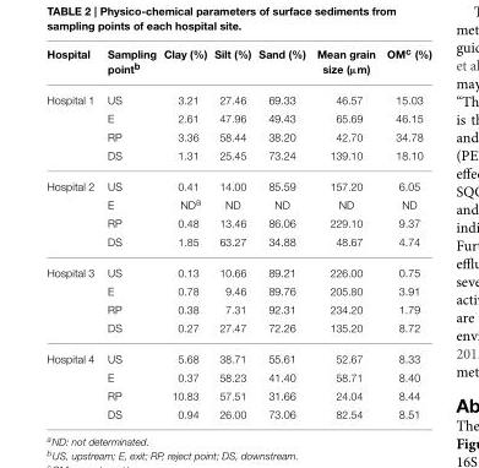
<table><thead><tr><td>Hospital</td><td>Sampling point<sup>b</sup></td><td>Clay (%)</td><td>Silt (%)</td><td>Sand (%)</td><td>Mean grain size (µm)</td><td>OM<sup>c</sup> (%)</td></tr></thead><tbody><tr><td rowspan="4">Hospital 1</td><td>US</td><td>3.21</td><td>27.46</td><td>69.33</td><td>46.57</td><td>15.03</td></tr><tr><td>E</td><td>2.61</td><td>47.96</td><td>49.43</td><td>65.69</td><td>46.15</td></tr><tr><td>RP</td><td>3.36</td><td>58.44</td><td>38.20</td><td>42.70</td><td>34.78</td></tr><tr><td>DS</td><td>1.31</td><td>25.45</td><td>73.24</td><td>139.10</td><td>18.10</td></tr><tr><td rowspan="4">Hospital 2</td><td>US</td><td>0.41</td><td>14.00</td><td>85.59</td><td>157.20</td><td>6.05</td></tr><tr><td>E</td><td>ND<sup>a</sup></td><td>ND</td><td>ND</td><td>ND</td><td>ND</td></tr><tr><td>RP</td><td>0.48</td><td>13.46</td><td>86.06</td><td>229.10</td><td>9.37</td></tr><tr><td>DS</td><td>1.85</td><td>63.27</td><td>34.88</td><td>48.67</td><td>4.74</td></tr><tr><td rowspan="4">Hospital 3</td><td>US</td><td>0.13</td><td>10.66</td><td>89.21</td><td>226.00</td><td>0.75</td></tr><tr><td>E</td><td>0.78</td><td>9.46</td><td>89.76</td><td>205.80</td><td>3.91</td></tr><tr><td>RP</td><td>0.38</td><td>7.31</td><td>92.31</td><td>234.20</td><td>1.79</td></tr><tr><td>DS</td><td>0.27</td><td>27.47</td><td>72.26</td><td>135.20</td><td>8.72</td></tr><tr><td rowspan="4">Hospital 4</td><td>US</td><td>5.68</td><td>38.71</td><td>55.61</td><td>52.67</td><td>8.33</td></tr><tr><td>E</td><td>0.37</td><td>58.23</td><td>41.40</td><td>58.71</td><td>8.40</td></tr><tr><td>RP</td><td>10.83</td><td>57.51</td><td>31.66</td><td>24.04</td><td>8.44</td></tr><tr><td>DS</td><td>0.94</td><td>26.00</td><td>73.06</td><td>82.54</td><td>8.51</td></tr></tbody></table>